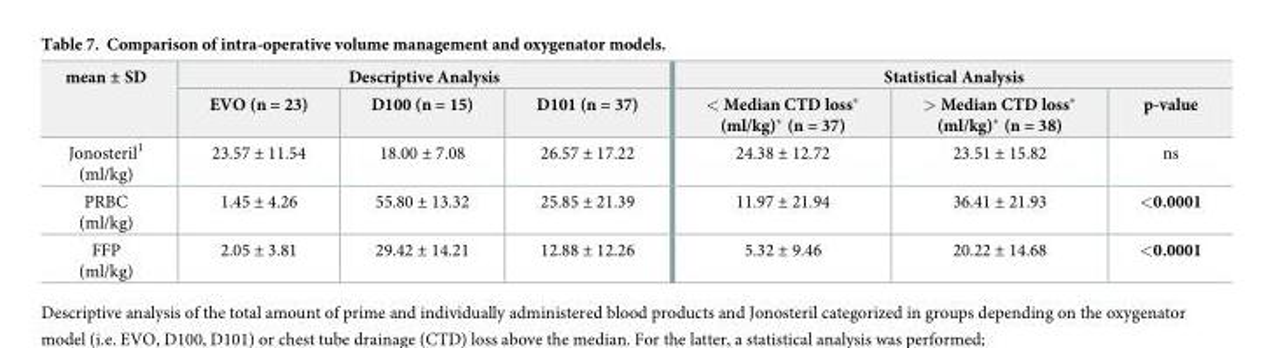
<table><thead><tr><td rowspan="2">mean ± SD</td><td colspan="3">Descriptive Analysis</td><td colspan="3">Statistical Analysis</td></tr><tr><td>EVO (n = 23)</td><td>D100 (n = 15)</td><td>D101 (n = 37)</td><td>&lt; Median CTD loss* (ml/kg)* (n = 37)</td><td>&gt; Median CTD loss* (ml/kg)* (n = 38)</td><td>p-value</td></tr></thead><tbody><tr><td>Jonosteril<sup>1</sup> (ml/kg)</td><td>23.57 ± 11.54</td><td>18.00 ± 7.08</td><td>26.57 ± 17.22</td><td>24.38 ± 12.72</td><td>23.51 ± 15.82</td><td>ns</td></tr><tr><td>PRBC (ml/kg)</td><td>1.45 ± 4.26</td><td>55.80 ± 13.32</td><td>25.85 ± 21.39</td><td>11.97 ± 21.94</td><td>36.41 ± 21.93</td><td>&lt;0.0001</td></tr><tr><td>FFP (ml/kg)</td><td>2.05 ± 3.81</td><td>29.42 ± 14.21</td><td>12.88 ± 12.26</td><td>5.32 ± 9.46</td><td>20.22 ± 14.68</td><td>&lt;0.0001</td></tr></tbody></table>